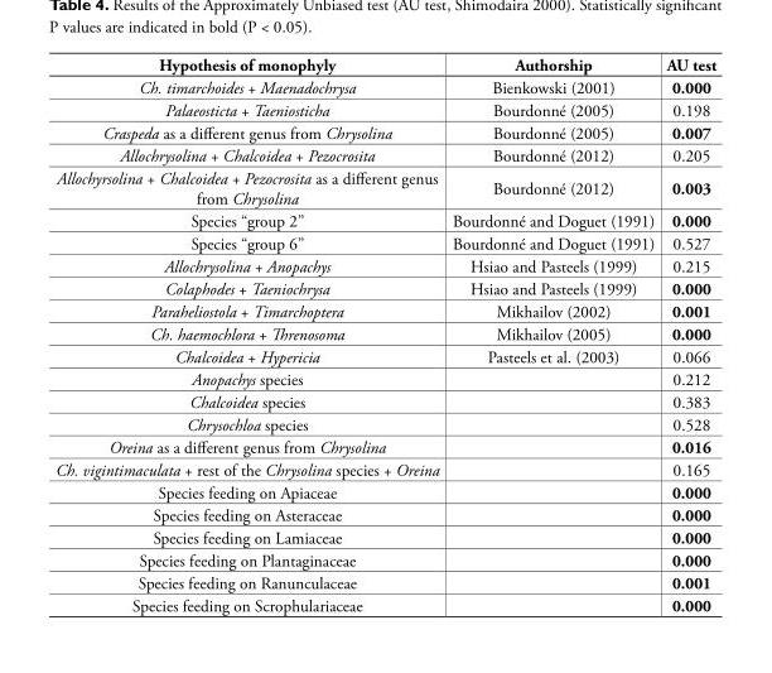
<table><thead><tr><td>Hypothesis of monophyly</td><td>Authorship</td><td>AU test</td></tr></thead><tbody><tr><td>Ch. timarchoides + Maenadochrysa</td><td>Bienkowski (2001)</td><td>0.000</td></tr><tr><td>Palaeosticta + Taeniosticha</td><td>Bourdonné (2005)</td><td>0.198</td></tr><tr><td>Craspeda as a different genus from Chrysolina</td><td>Bourdonné (2005)</td><td>0.007</td></tr><tr><td>Allochrysolina + Chalcoidea + Pezocrosita</td><td>Bourdonné (2012)</td><td>0.205</td></tr><tr><td>Allochyrsolina + Chalcoidea + Pezocrosita as a different genus from Chrysolina</td><td>Bourdonné (2012)</td><td>0.003</td></tr><tr><td>Species “group 2”</td><td>Bourdonné and Doguet (1991)</td><td>0.000</td></tr><tr><td>Species “group 6”</td><td>Bourdonné and Doguet (1991)</td><td>0.527</td></tr><tr><td>Allochrysolina + Anopachys</td><td>Hsiao and Pasteels (1999)</td><td>0.215</td></tr><tr><td>Colaphodes + Taeniochrysa</td><td>Hsiao and Pasteels (1999)</td><td>0.000</td></tr><tr><td>Paraheliostola + Timarchoptera</td><td>Mikhailov (2002)</td><td>0.001</td></tr><tr><td>Ch. haemochlora + Threnosoma</td><td>Mikhailov (2005)</td><td>0.000</td></tr><tr><td>Chalcoidea + Hypericia</td><td>Pasteels et al. (2003)</td><td>0.066</td></tr><tr><td>Anopachys species</td><td></td><td>0.212</td></tr><tr><td>Chalcoidea species</td><td></td><td>0.383</td></tr><tr><td>Chrysochloa species</td><td></td><td>0.528</td></tr><tr><td>Oreina as a different genus from Chrysolina</td><td></td><td>0.016</td></tr><tr><td>Ch. vigintimaculata + rest of the Chrysolina species + Oreina</td><td></td><td>0.165</td></tr><tr><td>Species feeding on Apiaceae</td><td></td><td>0.000</td></tr><tr><td>Species feeding on Asteraceae</td><td></td><td>0.000</td></tr><tr><td>Species feeding on Lamiaceae</td><td></td><td>0.000</td></tr><tr><td>Species feeding on Plantaginaceae</td><td></td><td>0.000</td></tr><tr><td>Species feeding on Ranunculaceae</td><td></td><td>0.001</td></tr><tr><td>Species feeding on Scrophulariaceae</td><td></td><td>0.000</td></tr></tbody></table>